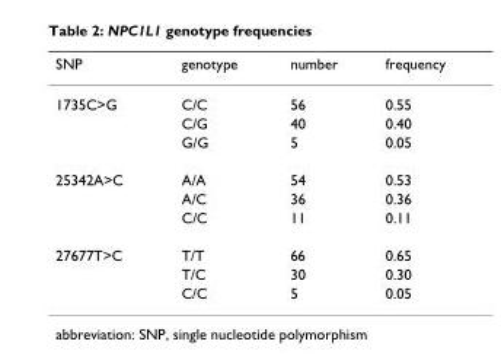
<table><thead><tr><td>SNP</td><td>genotype</td><td>number</td><td>frequency</td></tr></thead><tbody><tr><td rowspan="3">1735C&gt;G</td><td>C/C</td><td>56</td><td>0.55</td></tr><tr><td>C/G</td><td>40</td><td>0.40</td></tr><tr><td>G/G</td><td>5</td><td>0.05</td></tr><tr><td rowspan="3">25342A&gt;C</td><td>A/A</td><td>54</td><td>0.53</td></tr><tr><td>A/C</td><td>36</td><td>0.36</td></tr><tr><td>C/C</td><td>11</td><td>0.11</td></tr><tr><td rowspan="3">27677T&gt;C</td><td>T/T</td><td>66</td><td>0.65</td></tr><tr><td>T/C</td><td>30</td><td>0.30</td></tr><tr><td>C/C</td><td>5</td><td>0.05</td></tr></tbody></table>